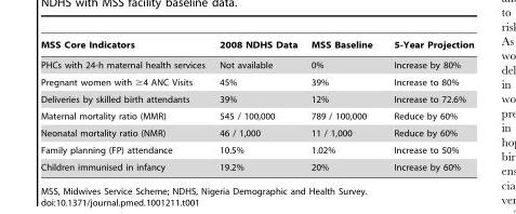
<table><thead><tr><td>MSS Core Indicators</td><td>2008 NDHS Data</td><td>MSS Baseline</td><td>5-Year Projection</td></tr></thead><tbody><tr><td>PHCs with 24-h maternal health services</td><td>Not available</td><td>0%</td><td>Increase by 80%</td></tr><tr><td>Pregnant women with ≥4 ANC Visits</td><td>45%</td><td>39%</td><td>Increase to 80%</td></tr><tr><td>Deliveries by skilled birth attendants</td><td>39%</td><td>12%</td><td>Increase to 72.6%</td></tr><tr><td>Maternal mortality ratio (MMR)</td><td>545 / 100,000</td><td>789 / 100,000</td><td>Reduce by 60%</td></tr><tr><td>Neonatal mortality ratio (NMR)</td><td>46 / 1,000</td><td>11 / 1,000</td><td>Reduce by 60%</td></tr><tr><td>Family planning (FP) attendance</td><td>10.5%</td><td>1.02%</td><td>Increase to 50%</td></tr><tr><td>Children immunised in infancy</td><td>19.2%</td><td>20%</td><td>Increase by 60%</td></tr></tbody></table>